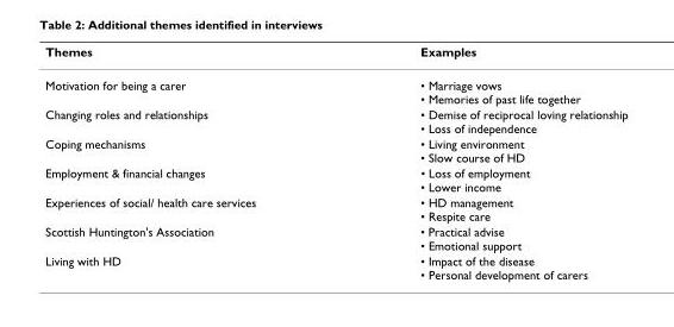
<table><thead><tr><td>Themes</td><td>Examples</td></tr></thead><tbody><tr><td>Motivation for being a carer</td><td>• Marriage vows • Memories of past life together</td></tr><tr><td>Changing roles and relationships</td><td>• Demise of reciprocal loving relationship • Loss of independence</td></tr><tr><td>Coping mechanisms</td><td>• Living environment • Slow course of HD</td></tr><tr><td>Employment &amp; financial changes</td><td>• Loss of employment • Lower income</td></tr><tr><td>Experiences of social/ health care services</td><td>• HD management • Respite care</td></tr><tr><td>Scottish Huntington&#x27;s Association</td><td>• Practical advise • Emotional support</td></tr><tr><td>Living with HD</td><td>• Impact of the disease • Personal development of carers</td></tr></tbody></table>